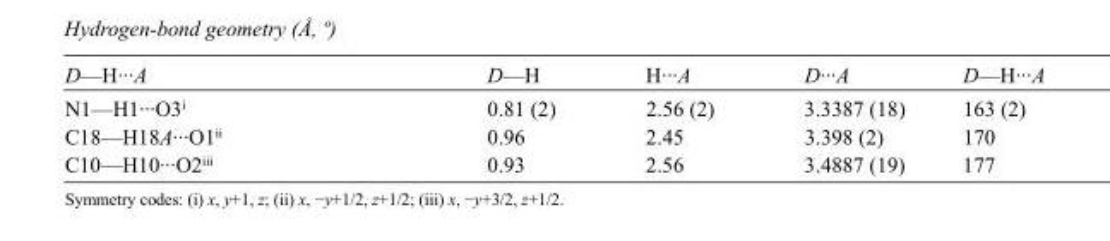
<table><tbody><tr><td>D—H···A</td><td>D—H</td><td>H···A</td><td>D···A</td><td>D—H···A</td></tr><tr><td>N1—H1···O3<sup>i</sup></td><td>0.81 (2)</td><td>2.56 (2)</td><td>3.3387 (18)</td><td>163 (2)</td></tr><tr><td>C18—H18A···O1<sup>ii</sup></td><td>0.96</td><td>2.45</td><td>3.398 (2)</td><td>170</td></tr><tr><td>C10—H10···O2<sup>iii</sup></td><td>0.93</td><td>2.56</td><td>3.4887 (19)</td><td>177</td></tr></tbody></table>